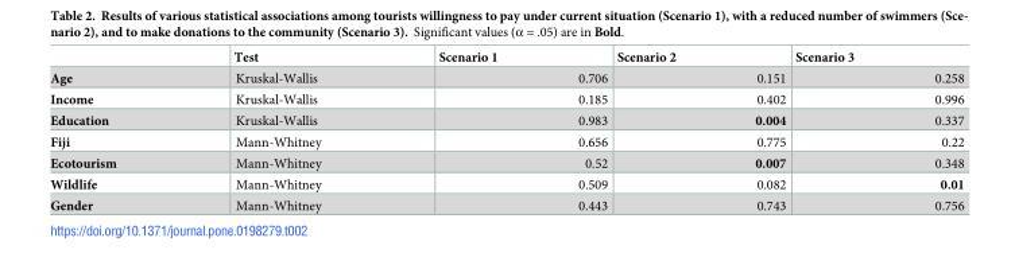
<table><thead><tr><td></td><td>Test</td><td>Scenario 1</td><td>Scenario 2</td><td>Scenario 3</td></tr></thead><tbody><tr><td>Age</td><td>Kruskal-Wallis</td><td>0.706</td><td>0.151</td><td>0.258</td></tr><tr><td>Income</td><td>Kruskal-Wallis</td><td>0.185</td><td>0.402</td><td>0.996</td></tr><tr><td>Education</td><td>Kruskal-Wallis</td><td>0.983</td><td>0.004</td><td>0.337</td></tr><tr><td>Fiji</td><td>Mann-Whitney</td><td>0.656</td><td>0.775</td><td>0.22</td></tr><tr><td>Ecotourism</td><td>Mann-Whitney</td><td>0.52</td><td>0.007</td><td>0.348</td></tr><tr><td>Wildlife</td><td>Mann-Whitney</td><td>0.509</td><td>0.082</td><td>0.01</td></tr><tr><td>Gender</td><td>Mann-Whitney</td><td>0.443</td><td>0.743</td><td>0.756</td></tr></tbody></table>